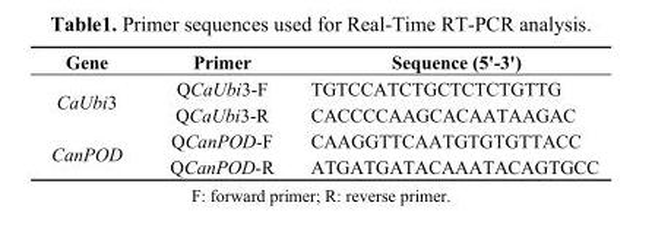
<table><thead><tr><td>Gene</td><td>Primer</td><td>Sequence (5&#x27;-3&#x27;)</td></tr></thead><tbody><tr><td rowspan="2">CaUbi3</td><td>QCaUbi3-F</td><td>TGTCCATCTGCTCTCTGTTG</td></tr><tr><td>QCaUbi3-R</td><td>CACCCCAAGCACAATAAGAC</td></tr><tr><td rowspan="2">CanPOD</td><td>QCanPOD-F</td><td>CAAGGTTCAATGTGTGTTACC</td></tr><tr><td>QCanPOD-R</td><td>ATGATGATACAAATACAGTGCC</td></tr></tbody></table>